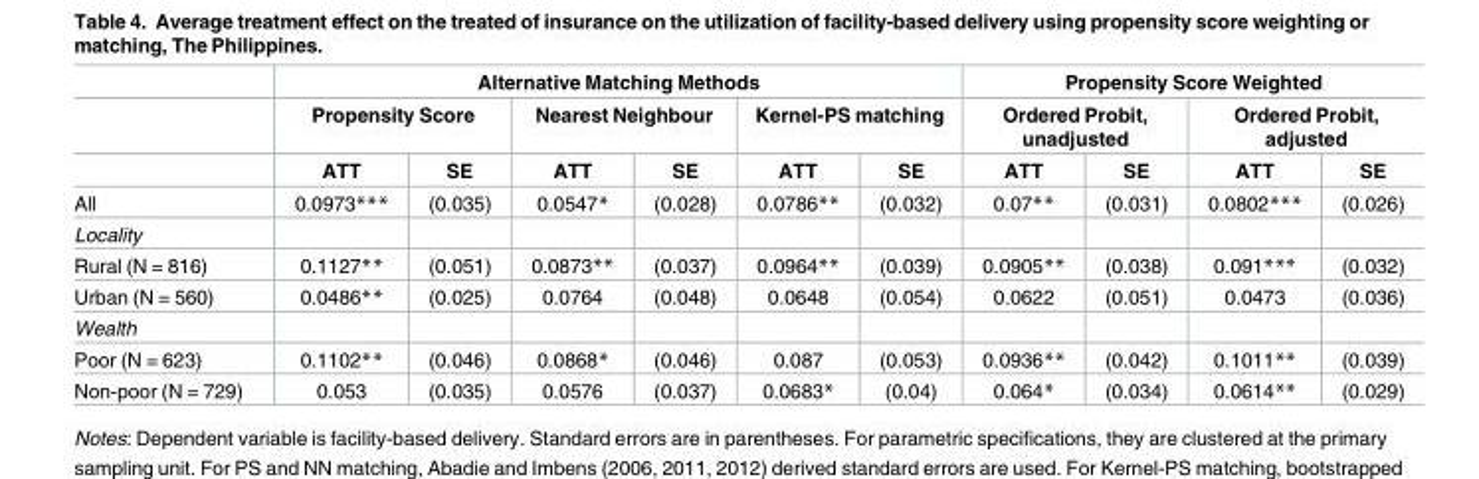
<table><thead><tr><td rowspan="3"></td><td colspan="6">Alternative Matching Methods</td><td colspan="4">Propensity Score Weighted</td></tr><tr><td colspan="2">Propensity Score</td><td colspan="2">Nearest Neighbour</td><td colspan="2">Kernel-PS matching</td><td colspan="2">Ordered Probit, unadjusted</td><td colspan="2">Ordered Probit, adjusted</td></tr><tr><td>ATT</td><td>SE</td><td>ATT</td><td>SE</td><td>ATT</td><td>SE</td><td>ATT</td><td>SE</td><td>ATT</td><td>SE</td></tr></thead><tbody><tr><td>All</td><td>0.0973***</td><td>(0.035)</td><td>0.0547*</td><td>(0.028)</td><td>0.0786**</td><td>(0.032)</td><td>0.07**</td><td>(0.031)</td><td>0.0802***</td><td>(0.026)</td></tr><tr><td colspan="11">Locality</td></tr><tr><td>Rural (N = 816)</td><td>0.1127**</td><td>(0.051)</td><td>0.0873**</td><td>(0.037)</td><td>0.0964**</td><td>(0.039)</td><td>0.0905**</td><td>(0.038)</td><td>0.091***</td><td>(0.032)</td></tr><tr><td>Urban (N = 560)</td><td>0.0486**</td><td>(0.025)</td><td>0.0764</td><td>(0.048)</td><td>0.0648</td><td>(0.054)</td><td>0.0622</td><td>(0.051)</td><td>0.0473</td><td>(0.036)</td></tr><tr><td colspan="11">Wealth</td></tr><tr><td>Poor (N = 623)</td><td>0.1102**</td><td>(0.046)</td><td>0.0868*</td><td>(0.046)</td><td>0.087</td><td>(0.053)</td><td>0.0936**</td><td>(0.042)</td><td>0.1011**</td><td>(0.039)</td></tr><tr><td>Non-poor (N = 729)</td><td>0.053</td><td>(0.035)</td><td>0.0576</td><td>(0.037)</td><td>0.0683*</td><td>(0.04)</td><td>0.064*</td><td>(0.034)</td><td>0.0614**</td><td>(0.029)</td></tr></tbody></table>